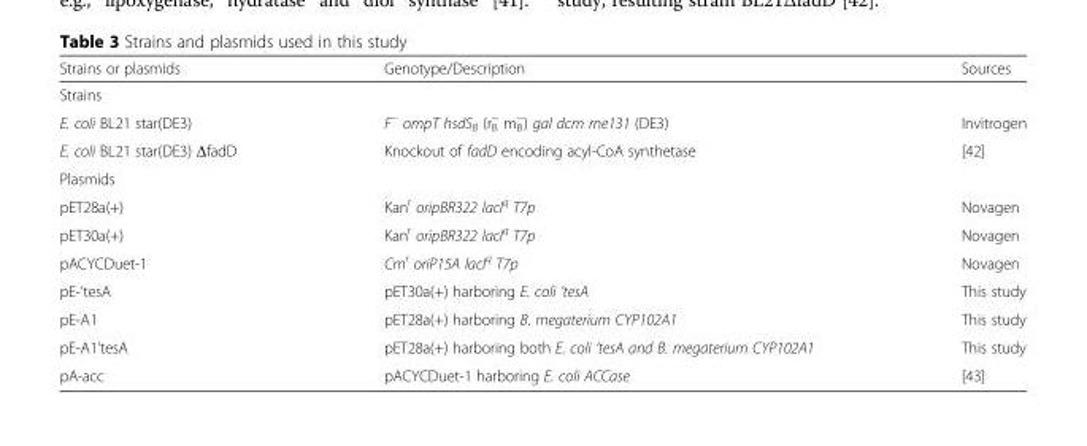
<table><thead><tr><td>Strains or plasmids</td><td>Genotype/Description</td><td>Sources</td></tr></thead><tbody><tr><td colspan="3">Strains</td></tr><tr><td>E. coli BL21 star(DE3)</td><td>F<sup>−</sup> ompT hsdS<sub>B</sub> (r<sub>B</sub> <sup>−</sup> m<sub>B</sub> <sup>−</sup>) gal dcm rne131 (DE3)</td><td>Invitrogen</td></tr><tr><td>E. coli BL21 star(DE3) ΔfadD</td><td>Knockout of fadD encoding acyl-CoA synthetase</td><td>[42]</td></tr><tr><td colspan="3">Plasmids</td></tr><tr><td>pET28a(+)</td><td>Kan<sup>r</sup> oripBR322 lacI<sup>q</sup> T7p</td><td>Novagen</td></tr><tr><td>pET30a(+)</td><td>Kan<sup>r</sup> oripBR322 lacI<sup>q</sup> T7p</td><td>Novagen</td></tr><tr><td>pACYCDuet-1</td><td>Cm<sup>r</sup> oriP15A lacI<sup>q</sup> T7p</td><td>Novagen</td></tr><tr><td>pE-‘tesA</td><td>pET30a(+) harboring E. coli ‘tesA</td><td>This study</td></tr><tr><td>pE-A1</td><td>pET28a(+) harboring B. megaterium CYP102A1</td><td>This study</td></tr><tr><td>pE-A1’tesA</td><td>pET28a(+) harboring both E. coli ‘tesA and B. megaterium CYP102A1</td><td>This study</td></tr><tr><td>pA-acc</td><td>pACYCDuet-1 harboring E. coli ACCase</td><td>[43]</td></tr></tbody></table>